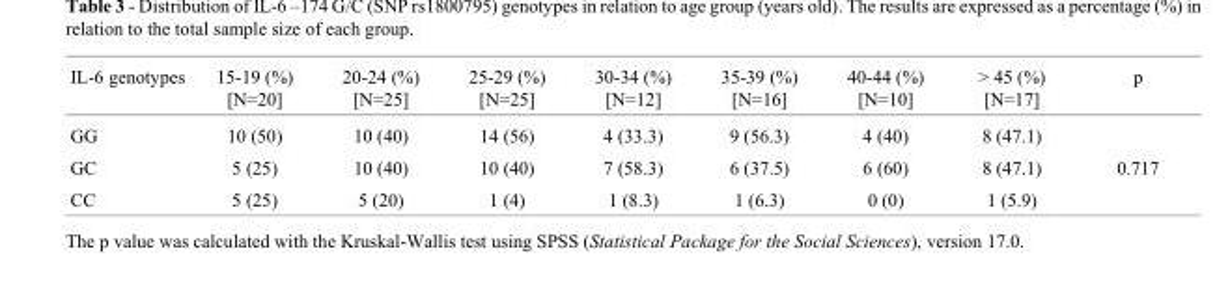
<table><thead><tr><td>IL-6 genotypes</td><td>15-19 (%) [N=20]</td><td>20-24 (%) [N=25]</td><td>25-29 (%) [N=25]</td><td>30-34 (%) [N=12]</td><td>35-39 (%) [N=16]</td><td>40-44 (%) [N=10]</td><td>&gt; 45 (%) [N=17]</td><td>p</td></tr></thead><tbody><tr><td>GG</td><td>10 (50)</td><td>10 (40)</td><td>14 (56)</td><td>4 (33.3)</td><td>9 (56.3)</td><td>4 (40)</td><td>8 (47.1)</td><td></td></tr><tr><td>GC</td><td>5 (25)</td><td>10 (40)</td><td>10 (40)</td><td>7 (58.3)</td><td>6 (37.5)</td><td>6 (60)</td><td>8 (47.1)</td><td>0.717</td></tr><tr><td>CC</td><td>5 (25)</td><td>5 (20)</td><td>1 (4)</td><td>1 (8.3)</td><td>1 (6.3)</td><td>0 (0)</td><td>1 (5.9)</td><td></td></tr></tbody></table>